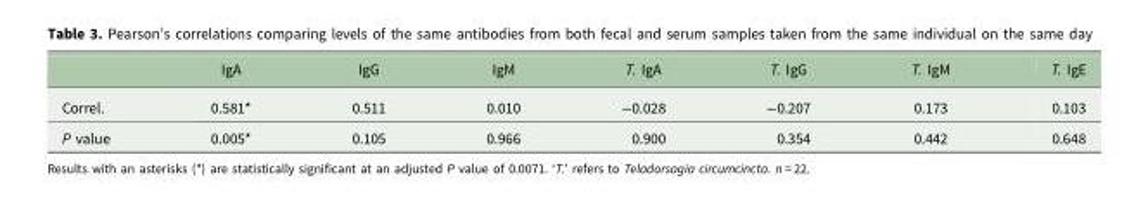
<table><thead><tr><td></td><td>IgA</td><td>IgG</td><td>IgM</td><td>T. IgA</td><td>T. IgG</td><td>T. IgM</td><td>T. IgE</td></tr></thead><tbody><tr><td>Correl.</td><td>0.581*</td><td>0.511</td><td>0.010</td><td>−0.028</td><td>−0.207</td><td>0.173</td><td>0.103</td></tr><tr><td>P value</td><td>0.005*</td><td>0.105</td><td>0.966</td><td>0.900</td><td>0.354</td><td>0.442</td><td>0.648</td></tr></tbody></table>